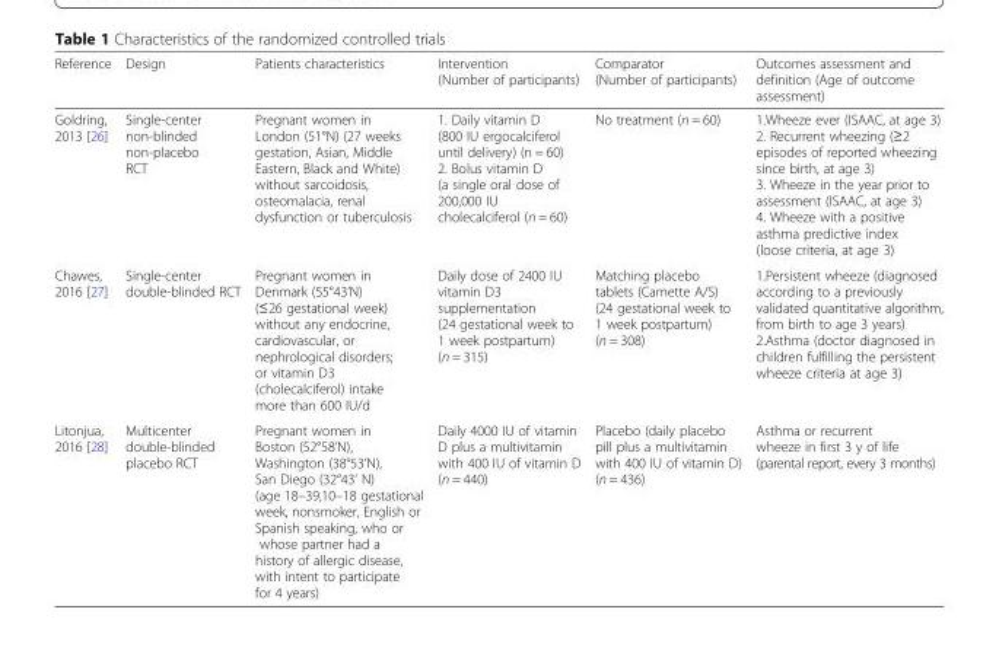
<table><thead><tr><td>Reference</td><td>Design</td><td>Patients characteristics</td><td>Intervention (Number of participants)</td><td>Comparator (Number of participants)</td><td>Outcomes assessment and definition (Age of outcome assessment)</td></tr></thead><tbody><tr><td>Goldring, 2013 [26]</td><td>Single-center non-blinded non-placebo RCT</td><td>Pregnant women in London (51°N) (27 weeks gestation, Asian, Middle Eastern, Black and White) without sarcoidosis, osteomalacia, renal dysfunction or tuberculosis</td><td>1. Daily vitamin D (800 IU ergocalciferol until delivery) (n = 60) 2. Bolus vitamin D (a single oral dose of 200,000 IU cholecalciferol (n = 60)</td><td>No treatment (n = 60)</td><td>1.Wheeze ever (ISAAC, at age 3) 2. Recurrent wheezing (≥2 episodes of reported wheezing since birth, at age 3) 3. Wheeze in the year prior to assessment (ISAAC, at age 3) 4. Wheeze with a positive asthma predictive index (loose criteria, at age 3)</td></tr><tr><td>Chawes, 2016 [27]</td><td>Single-center double-blinded RCT</td><td>Pregnant women in Denmark (55°43’N) (≤26 gestational week) without any endocrine, cardiovascular, or nephrological disorders; or vitamin D3 (cholecalciferol) intake more than 600 IU/d</td><td>Daily dose of 2400 IU vitamin D3 supplementation (24 gestational week to 1 week postpartum) (n = 315)</td><td>Matching placebo tablets (Camette A/S) (24 gestational week to 1 week postpartum) (n = 308)</td><td>1.Persistent wheeze (diagnosed according to a previously validated quantitative algorithm, from birth to age 3 years) 2.Asthma (doctor diagnosed in children fulfilling the persistent wheeze criteria at age 3)</td></tr><tr><td>Litonjua, 2016 [28]</td><td>Multicenter double-blinded placebo RCT</td><td>Pregnant women in Boston (52°58’N), Washington (38°53’N), San Diego (32°43’ N) (age 18–39,10–18 gestational week, nonsmoker, English or Spanish speaking, who or whose partner had a history of allergic disease, with intent to participate for 4 years)</td><td>Daily 4000 IU of vitamin D plus a multivitamin with 400 IU of vitamin D (n = 440)</td><td>Placebo (daily placebo pill plus a multivitamin with 400 IU of vitamin D) (n = 436)</td><td>Asthma or recurrent wheeze in first 3 y of life (parental report, every 3 months)</td></tr></tbody></table>